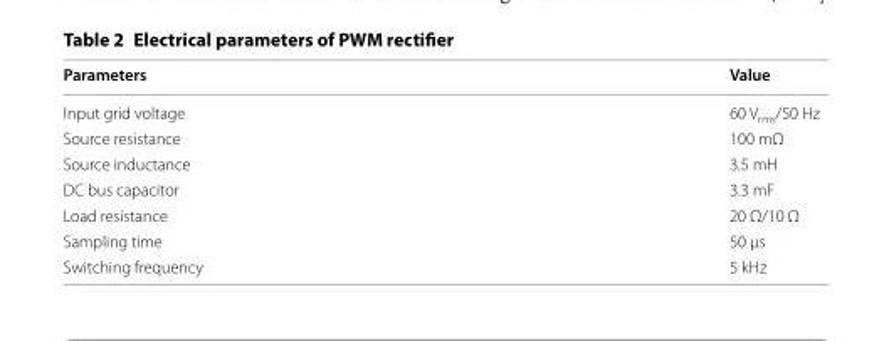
<table><thead><tr><td>Parameters</td><td>Value</td></tr></thead><tbody><tr><td>Input grid voltage</td><td>60 V<sub>rms</sub>/50 Hz</td></tr><tr><td>Source resistance</td><td>100 mΩ</td></tr><tr><td>Source inductance</td><td>3.5 mH</td></tr><tr><td>DC bus capacitor</td><td>3.3 mF</td></tr><tr><td>Load resistance</td><td>20 Ω/10 Ω</td></tr><tr><td>Sampling time</td><td>50 µs</td></tr><tr><td>Switching frequency</td><td>5 kHz</td></tr></tbody></table>